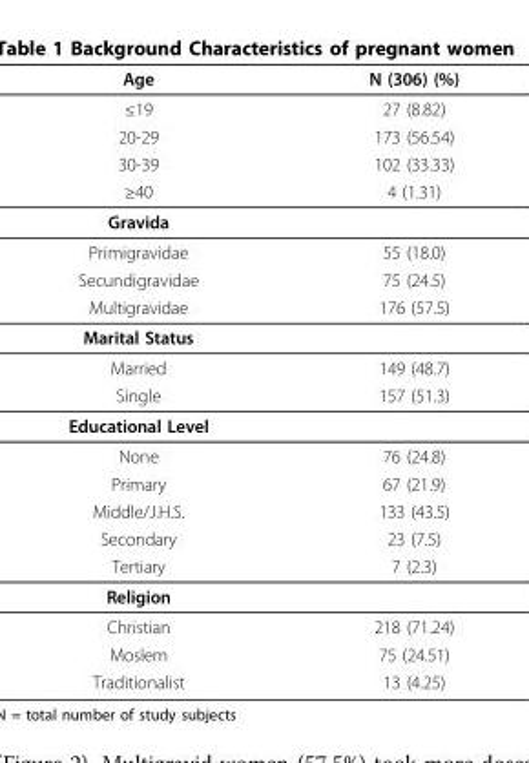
<table><thead><tr><td>Age</td><td>N (306) (%)</td></tr></thead><tbody><tr><td>≤19</td><td>27 (8.82)</td></tr><tr><td>20-29</td><td>173 (56.54)</td></tr><tr><td>30-39</td><td>102 (33.33)</td></tr><tr><td>≥40</td><td>4 (1.31)</td></tr><tr><td colspan="2">Gravida</td></tr><tr><td>Primigravidae</td><td>55 (18.0)</td></tr><tr><td>Secundigravidae</td><td>75 (24.5)</td></tr><tr><td>Multigravidae</td><td>176 (57.5)</td></tr><tr><td colspan="2">Marital Status</td></tr><tr><td>Married</td><td>149 (48.7)</td></tr><tr><td>Single</td><td>157 (51.3)</td></tr><tr><td colspan="2">Educational Level</td></tr><tr><td>None</td><td>76 (24.8)</td></tr><tr><td>Primary</td><td>67 (21.9)</td></tr><tr><td>Middle/J.H.S.</td><td>133 (43.5)</td></tr><tr><td>Secondary</td><td>23 (7.5)</td></tr><tr><td>Tertiary</td><td>7 (2.3)</td></tr><tr><td colspan="2">Religion</td></tr><tr><td>Christian</td><td>218 (71.24)</td></tr><tr><td>Moslem</td><td>75 (24.51)</td></tr><tr><td>Traditionalist</td><td>13 (4.25)</td></tr></tbody></table>